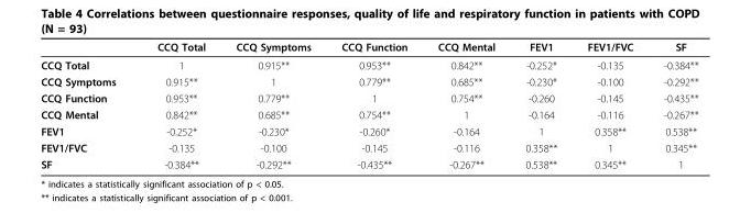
<table><thead><tr><td></td><td>CCQ Total</td><td>CCQ Symptoms</td><td>CCQ Function</td><td>CCQ Mental</td><td>FEV1</td><td>FEV1/FVC</td><td>SF</td></tr></thead><tbody><tr><td>CCQ Total</td><td>1</td><td>0.915**</td><td>0.953**</td><td>0.842**</td><td>-0.252*</td><td>-0.135</td><td>-0.384**</td></tr><tr><td>CCQ Symptoms</td><td>0.915**</td><td>1</td><td>0.779**</td><td>0.685**</td><td>-0.230*</td><td>-0.100</td><td>-0.292**</td></tr><tr><td>CCQ Function</td><td>0.953**</td><td>0.779**</td><td>1</td><td>0.754**</td><td>-0.260</td><td>-0.145</td><td>-0.435**</td></tr><tr><td>CCQ Mental</td><td>0.842**</td><td>0.685**</td><td>0.754**</td><td>1</td><td>-0.164</td><td>-0.116</td><td>-0.267**</td></tr><tr><td>FEV1</td><td>-0.252*</td><td>-0.230*</td><td>-0.260*</td><td>-0.164</td><td>1</td><td>0.358**</td><td>0.538**</td></tr><tr><td>FEV1/FVC</td><td>-0.135</td><td>-0.100</td><td>-0.145</td><td>-0.116</td><td>0.358**</td><td>1</td><td>0.345**</td></tr><tr><td>SF</td><td>-0.384**</td><td>-0.292**</td><td>-0.435**</td><td>-0.267**</td><td>0.538**</td><td>0.345**</td><td>1</td></tr></tbody></table>